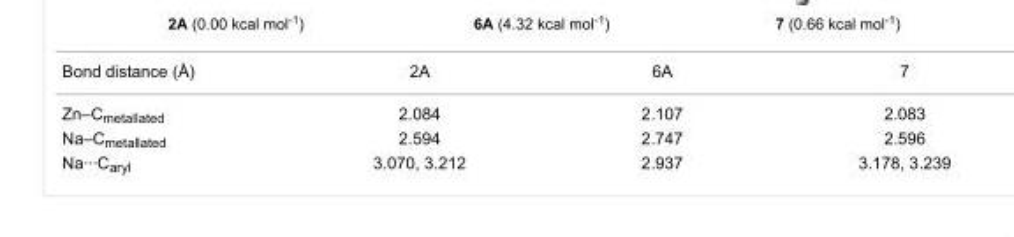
<table><tbody><tr><td>Bond distance (Å)</td><td>2A</td><td>6A</td><td>7</td></tr><tr><td>Zn–C<sub>metallated</sub></td><td>2.084</td><td>2.107</td><td>2.083</td></tr><tr><td>Na–C<sub>metallated</sub></td><td>2.594</td><td>2.747</td><td>2.596</td></tr><tr><td>Na···C<sub>aryl</sub></td><td>3.070, 3.212</td><td>2.937</td><td>3.178, 3.239</td></tr></tbody></table>